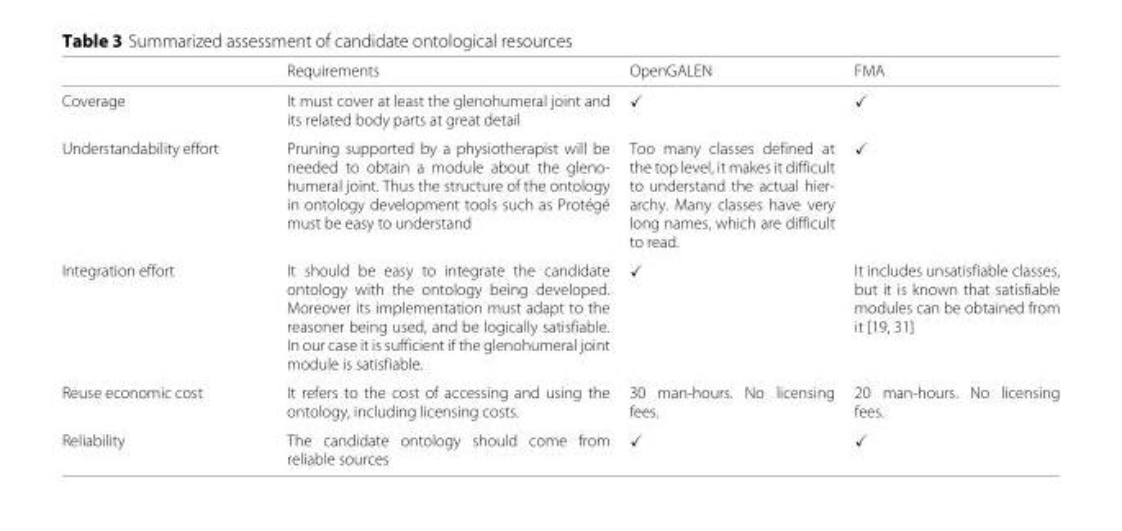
<table><thead><tr><td></td><td>Requirements</td><td>OpenGALEN</td><td>FMA</td></tr></thead><tbody><tr><td>Coverage</td><td>It must cover at least the glenohumeral joint and its related body parts at great detail</td><td>✓</td><td>✓</td></tr><tr><td>Understandability effort</td><td>Pruning supported by a physiotherapist will be needed to obtain a module about the gleno- humeral joint. Thus the structure of the ontology in ontology development tools such as Protégé must be easy to understand</td><td>Too many classes defined at the top level, it makes it difficult to understand the actual hier- archy. Many classes have very long names, which are difficult to read.</td><td>✓</td></tr><tr><td>Integration effort</td><td>It should be easy to integrate the candidate ontology with the ontology being developed. Moreover its implementation must adapt to the reasoner being used, and be logically satisfiable. In our case it is sufficient if the glenohumeral joint module is satisfiable.</td><td>✓</td><td>It includes unsatisfiable classes, but it is known that satisfiable modules can be obtained from it [19, 31]</td></tr><tr><td>Reuse economic cost</td><td>It refers to the cost of accessing and using the ontology, including licensing costs.</td><td>30 man-hours. No licensing fees.</td><td>20 man-hours. No licensing fees.</td></tr><tr><td>Reliability</td><td>The candidate ontology should come from reliable sources</td><td>✓</td><td>✓</td></tr></tbody></table>